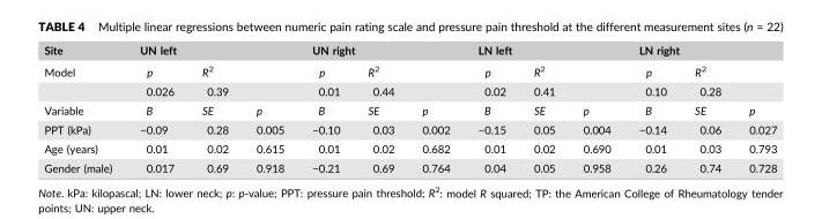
<table><thead><tr><td rowspan="4">Site Model Variable</td><td colspan="3">UN left</td><td colspan="3">UN right</td><td colspan="3">LN left</td><td colspan="3">LN right</td></tr><tr><td rowspan="3">p 0.026 B</td><td rowspan="2" colspan="2">R<sup>2</sup> 0.39</td><td rowspan="3">p 0.01 B</td><td rowspan="2" colspan="2">R<sup>2</sup> 0.44</td><td rowspan="3">p 0.02 B</td><td rowspan="2" colspan="2">R<sup>2</sup> 0.41</td><td rowspan="3">p 0.10 B</td><td rowspan="2" colspan="2">R<sup>2</sup> 0.28</td></tr><tr></tr><tr><td>SE</td><td>p</td><td>SE</td><td>p</td><td>SE</td><td>p</td><td>SE</td><td>p</td></tr></thead><tbody><tr><td>PPT (kPa)</td><td>−0.09</td><td>0.28</td><td>0.005</td><td>−0.10</td><td>0.03</td><td>0.002</td><td>−0.15</td><td>0.05</td><td>0.004</td><td>−0.14</td><td>0.06</td><td>0.027</td></tr><tr><td>Age (years)</td><td>0.01</td><td>0.02</td><td>0.615</td><td>0.01</td><td>0.02</td><td>0.682</td><td>0.01</td><td>0.02</td><td>0.690</td><td>0.01</td><td>0.03</td><td>0.793</td></tr><tr><td>Gender (male)</td><td>0.017</td><td>0.69</td><td>0.918</td><td>−0.21</td><td>0.69</td><td>0.764</td><td>0.04</td><td>0.05</td><td>0.958</td><td>0.26</td><td>0.74</td><td>0.728</td></tr></tbody></table>